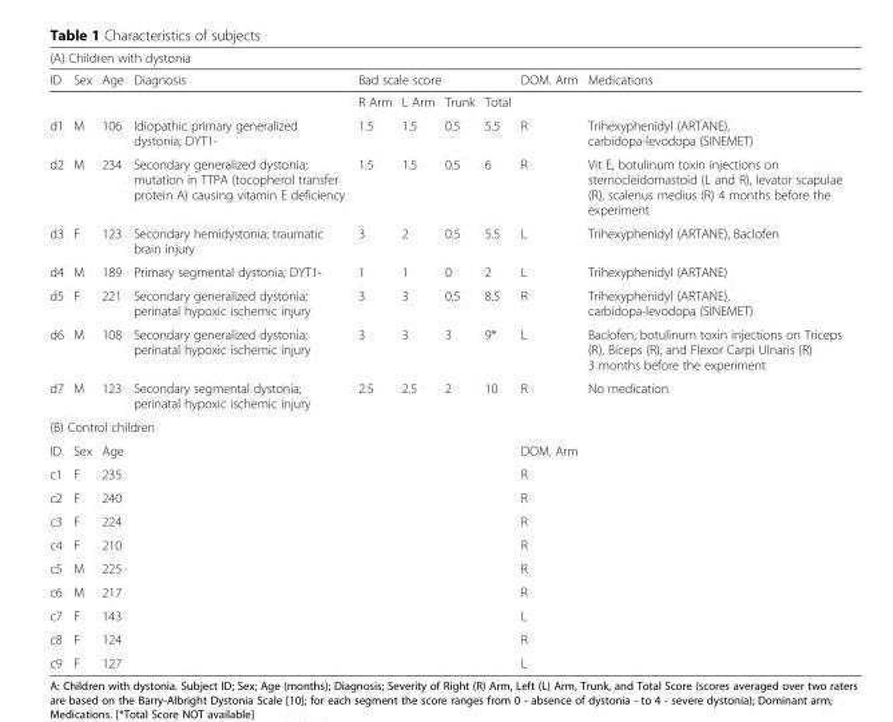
<table><thead><tr><td colspan="10">(A) Children with dystonia</td></tr><tr><td rowspan="2">ID</td><td rowspan="2">Sex</td><td rowspan="2">Age</td><td rowspan="2">Diagnosis</td><td colspan="4">Bad scale score</td><td rowspan="2">DOM. Arm</td><td rowspan="2">Medications</td></tr><tr><td>R Arm</td><td>L Arm</td><td>Trunk</td><td>Total</td></tr></thead><tbody><tr><td>d1</td><td>M</td><td>106</td><td>Idiopathic primary generalized dystonia; DYT1-</td><td>1.5</td><td>1.5</td><td>0.5</td><td>5.5</td><td>R</td><td>Trihexyphenidyl (ARTANE), carbidopa-levodopa (SINEMET)</td></tr><tr><td>d2</td><td>M</td><td>234</td><td>Secondary generalized dystonia; mutation in TTPA (tocopherol transfer protein A) causing vitamin E deficiency</td><td>1.5</td><td>1.5</td><td>0.5</td><td>6</td><td>R</td><td>Vit E, botulinum toxin injections on sternocleidomastoid (L and R), levator scapulae (R), scalenus medius (R) 4 months before the experiment</td></tr><tr><td>d3</td><td>F</td><td>123</td><td>Secondary hemidystonia; traumatic brain injury</td><td>3</td><td>2</td><td>0.5</td><td>5.5</td><td>L</td><td>Trihexyphenidyl (ARTANE), Baclofen</td></tr><tr><td>d4</td><td>M</td><td>189</td><td>Primary segmental dystonia; DYT1-</td><td>1</td><td>1</td><td>0</td><td>2</td><td>L</td><td>Trihexyphenidyl (ARTANE)</td></tr><tr><td>d5</td><td>F</td><td>221</td><td>Secondary generalized dystonia; perinatal hypoxic ischemic injury</td><td>3</td><td>3</td><td>0.5</td><td>8.5</td><td>R</td><td>Trihexyphenidyl (ARTANE), carbidopa-levodopa (SINEMET)</td></tr><tr><td>d6</td><td>M</td><td>108</td><td>Secondary generalized dystonia; perinatal hypoxic ischemic injury</td><td>3</td><td>3</td><td>3</td><td>9*</td><td>L</td><td>Baclofen, botulinum toxin injections on Triceps (R), Biceps (R), and Flexor Carpi Ulnaris (R) 3 months before the experiment</td></tr><tr><td>d7</td><td>M</td><td>123</td><td>Secondary segmental dystonia; perinatal hypoxic ischemic injury</td><td>2.5</td><td>2.5</td><td>2</td><td>10</td><td>R</td><td>No medication</td></tr><tr><td colspan="10">(B) Control children</td></tr><tr><td>ID</td><td>Sex</td><td>Age</td><td colspan="5"></td><td>DOM. Arm</td><td></td></tr><tr><td>c1</td><td>F</td><td>235</td><td colspan="5"></td><td>R</td><td></td></tr><tr><td>c2</td><td>F</td><td>240</td><td colspan="5"></td><td>R</td><td></td></tr><tr><td>c3</td><td>F</td><td>224</td><td colspan="5"></td><td>R</td><td></td></tr><tr><td>c4</td><td>F</td><td>210</td><td colspan="5"></td><td>R</td><td></td></tr><tr><td>c5</td><td>M</td><td>225</td><td colspan="5"></td><td>R</td><td></td></tr><tr><td>c6</td><td>M</td><td>217</td><td colspan="5"></td><td>R</td><td></td></tr><tr><td>c7</td><td>F</td><td>143</td><td colspan="5"></td><td>L</td><td></td></tr><tr><td>c8</td><td>F</td><td>124</td><td colspan="5"></td><td>R</td><td></td></tr><tr><td>c9</td><td>F</td><td>127</td><td colspan="5"></td><td>L</td><td></td></tr></tbody></table>